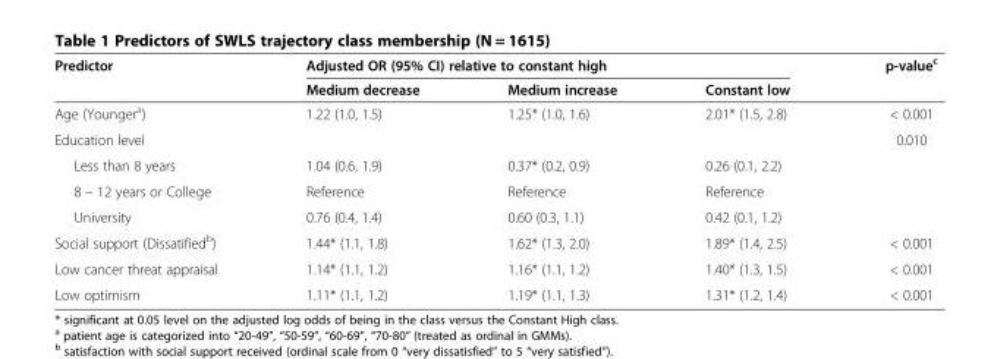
<table><thead><tr><td rowspan="2">Predictor</td><td colspan="3">Adjusted OR (95% CI) relative to constant high</td><td rowspan="2">p-value<sup>c</sup></td></tr><tr><td>Medium decrease</td><td>Medium increase</td><td>Constant low</td></tr></thead><tbody><tr><td>Age (Younger<sup>a</sup>)</td><td>1.22 (1.0, 1.5)</td><td>1.25* (1.0, 1.6)</td><td>2.01* (1.5, 2.8)</td><td>&lt; 0.001</td></tr><tr><td>Education level</td><td></td><td></td><td></td><td>0.010</td></tr><tr><td>Less than 8 years</td><td>1.04 (0.6, 1.9)</td><td>0.37* (0.2, 0.9)</td><td>0.26 (0.1, 2.2)</td><td></td></tr><tr><td>8 – 12 years or College</td><td>Reference</td><td>Reference</td><td>Reference</td><td></td></tr><tr><td>University</td><td>0.76 (0.4, 1.4)</td><td>0.60 (0.3, 1.1)</td><td>0.42 (0.1, 1.2)</td><td></td></tr><tr><td>Social support (Dissatified<sup>b</sup>)</td><td>1.44* (1.1, 1.8)</td><td>1.62* (1.3, 2.0)</td><td>1.89* (1.4, 2.5)</td><td>&lt; 0.001</td></tr><tr><td>Low cancer threat appraisal</td><td>1.14* (1.1, 1.2)</td><td>1.16* (1.1, 1.2)</td><td>1.40* (1.3, 1.5)</td><td>&lt; 0.001</td></tr><tr><td>Low optimism</td><td>1.11* (1.1, 1.2)</td><td>1.19* (1.1, 1.3)</td><td>1.31* (1.2, 1.4)</td><td>&lt; 0.001</td></tr></tbody></table>